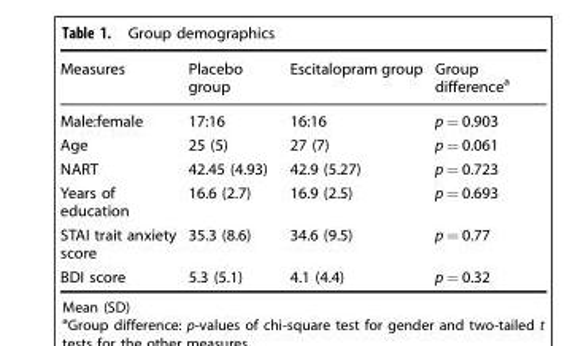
<table><thead><tr><td>Measures</td><td>Placebo group</td><td>Escitalopram group</td><td>Group difference<sup>a</sup></td></tr></thead><tbody><tr><td>Male:female</td><td>17:16</td><td>16:16</td><td>p = 0.903</td></tr><tr><td>Age</td><td>25 (5)</td><td>27 (7)</td><td>p = 0.061</td></tr><tr><td>NART</td><td>42.45 (4.93)</td><td>42.9 (5.27)</td><td>p = 0.723</td></tr><tr><td>Years of education</td><td>16.6 (2.7)</td><td>16.9 (2.5)</td><td>p = 0.693</td></tr><tr><td>STAI trait anxiety score</td><td>35.3 (8.6)</td><td>34.6 (9.5)</td><td>p = 0.77</td></tr><tr><td>BDI score</td><td>5.3 (5.1)</td><td>4.1 (4.4)</td><td>p = 0.32</td></tr></tbody></table>